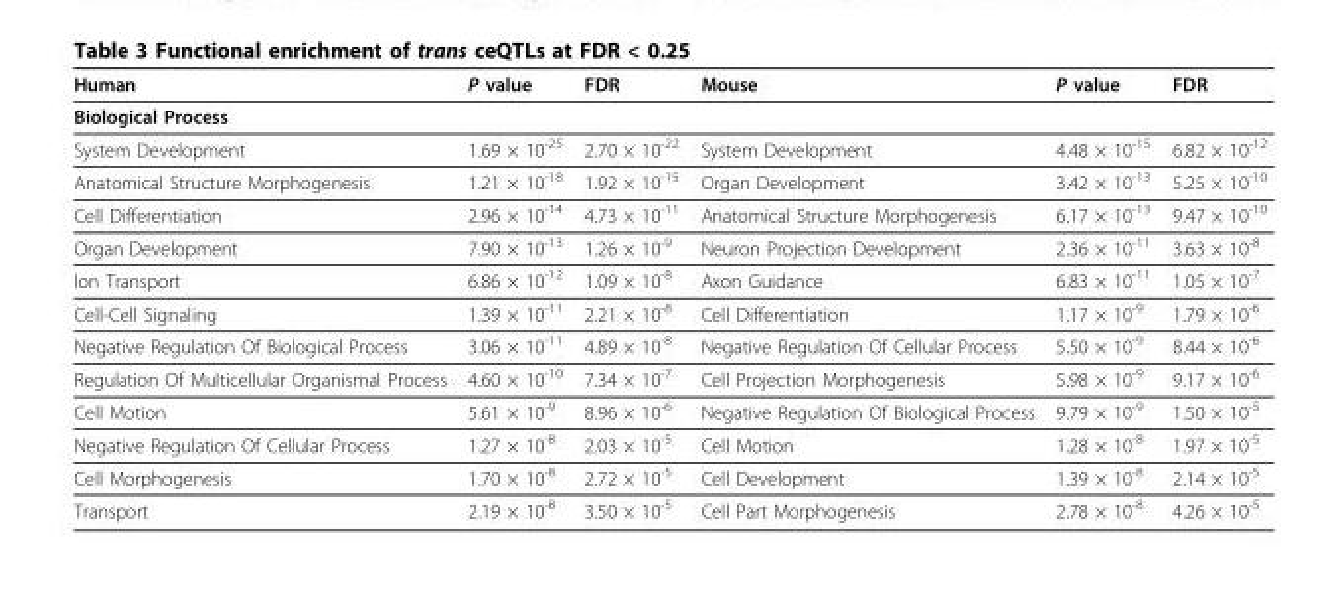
<table><thead><tr><td>Human</td><td>P value</td><td>FDR</td><td>Mouse</td><td>P value</td><td>FDR</td></tr></thead><tbody><tr><td colspan="6">Biological Process</td></tr><tr><td>System Development</td><td>1.69 × 10<sup>-25</sup></td><td>2.70 × 10<sup>-22</sup></td><td>System Development</td><td>4.48 × 10<sup>-15</sup></td><td>6.82 × 10<sup>-12</sup></td></tr><tr><td>Anatomical Structure Morphogenesis</td><td>1.21 × 10<sup>-18</sup></td><td>1.92 × 10<sup>-15</sup></td><td>Organ Development</td><td>3.42 × 10<sup>-13</sup></td><td>5.25 × 10<sup>-10</sup></td></tr><tr><td>Cell Differentiation</td><td>2.96 × 10<sup>-14</sup></td><td>4.73 × 10<sup>-11</sup></td><td>Anatomical Structure Morphogenesis</td><td>6.17 × 10<sup>-13</sup></td><td>9.47 × 10<sup>-10</sup></td></tr><tr><td>Organ Development</td><td>7.90 × 10<sup>-13</sup></td><td>1.26 × 10<sup>-9</sup></td><td>Neuron Projection Development</td><td>2.36 × 10<sup>-11</sup></td><td>3.63 × 10<sup>-8</sup></td></tr><tr><td>Ion Transport</td><td>6.86 × 10<sup>-12</sup></td><td>1.09 × 10<sup>-8</sup></td><td>Axon Guidance</td><td>6.83 × 10<sup>-11</sup></td><td>1.05 × 10<sup>-7</sup></td></tr><tr><td>Cell-Cell Signaling</td><td>1.39 × 10<sup>-11</sup></td><td>2.21 × 10<sup>-8</sup></td><td>Cell Differentiation</td><td>1.17 × 10<sup>-9</sup></td><td>1.79 × 10<sup>-6</sup></td></tr><tr><td>Negative Regulation Of Biological Process</td><td>3.06 × 10<sup>-11</sup></td><td>4.89 × 10<sup>-8</sup></td><td>Negative Regulation Of Cellular Process</td><td>5.50 × 10<sup>-9</sup></td><td>8.44 × 10<sup>-6</sup></td></tr><tr><td>Regulation Of Multicellular Organismal Process</td><td>4.60 × 10<sup>-10</sup></td><td>7.34 × 10<sup>-7</sup></td><td>Cell Projection Morphogenesis</td><td>5.98 × 10<sup>-9</sup></td><td>9.17 × 10<sup>-6</sup></td></tr><tr><td>Cell Motion</td><td>5.61 × 10<sup>-9</sup></td><td>8.96 × 10<sup>-6</sup></td><td>Negative Regulation Of Biological Process</td><td>9.79 × 10<sup>-9</sup></td><td>1.50 × 10<sup>-5</sup></td></tr><tr><td>Negative Regulation Of Cellular Process</td><td>1.27 × 10<sup>-8</sup></td><td>2.03 × 10<sup>-5</sup></td><td>Cell Motion</td><td>1.28 × 10<sup>-8</sup></td><td>1.97 × 10<sup>-5</sup></td></tr><tr><td>Cell Morphogenesis</td><td>1.70 × 10<sup>-8</sup></td><td>2.72 × 10<sup>-5</sup></td><td>Cell Development</td><td>1.39 × 10<sup>-8</sup></td><td>2.14 × 10<sup>-5</sup></td></tr><tr><td>Transport</td><td>2.19 × 10<sup>-8</sup></td><td>3.50 × 10<sup>-5</sup></td><td>Cell Part Morphogenesis</td><td>2.78 × 10<sup>-8</sup></td><td>4.26 × 10<sup>-5</sup></td></tr></tbody></table>